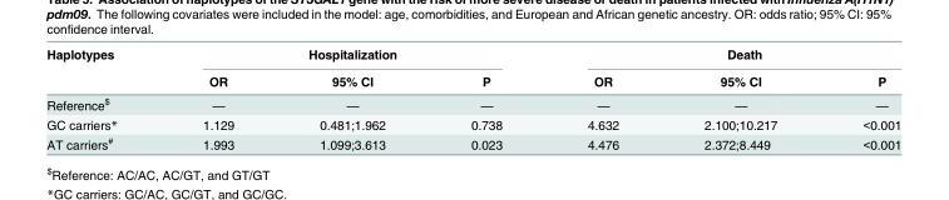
<table><thead><tr><td rowspan="2">Haplotypes</td><td colspan="3">Hospitalization</td><td colspan="3">Death</td></tr><tr><td>OR</td><td>95% CI</td><td>P</td><td>OR</td><td>95% CI</td><td>P</td></tr></thead><tbody><tr><td>Reference<sup>$</sup></td><td>—</td><td>—</td><td>—</td><td>—</td><td>—</td><td>—</td></tr><tr><td>GC carriers*</td><td>1.129</td><td>0.481;1.962</td><td>0.738</td><td>4.632</td><td>2.100;10.217</td><td>&lt;0.001</td></tr><tr><td>AT carriers<sup>#</sup></td><td>1.993</td><td>1.099;3.613</td><td>0.023</td><td>4.476</td><td>2.372;8.449</td><td>&lt;0.001</td></tr></tbody></table>